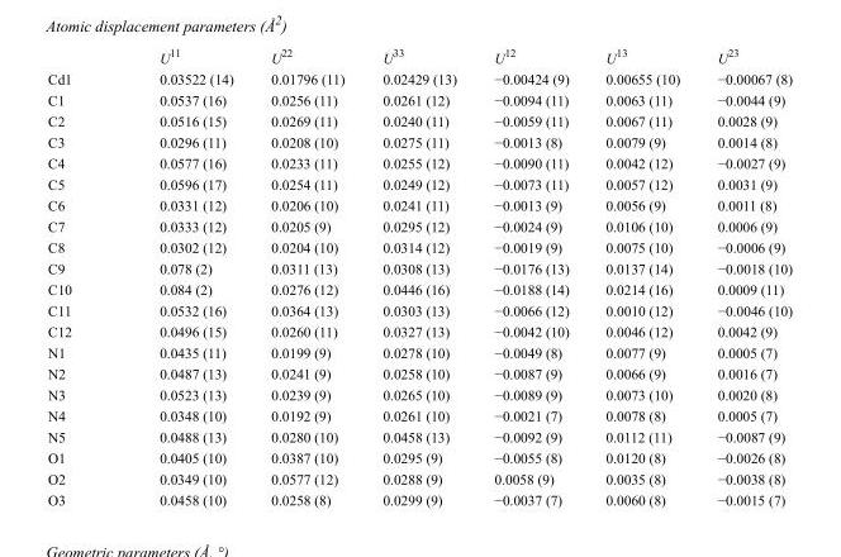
<table><thead><tr><td></td><td>U<sup>11</sup></td><td>U<sup>22</sup></td><td>U<sup>33</sup></td><td>U<sup>12</sup></td><td>U<sup>13</sup></td><td>U<sup>23</sup></td></tr></thead><tbody><tr><td>Cd1</td><td>0.03522 (14)</td><td>0.01796 (11)</td><td>0.02429 (13)</td><td>−0.00424 (9)</td><td>0.00655 (10)</td><td>−0.00067 (8)</td></tr><tr><td>C1</td><td>0.0537 (16)</td><td>0.0256 (11)</td><td>0.0261 (12)</td><td>−0.0094 (11)</td><td>0.0063 (11)</td><td>−0.0044 (9)</td></tr><tr><td>C2</td><td>0.0516 (15)</td><td>0.0269 (11)</td><td>0.0240 (11)</td><td>−0.0059 (11)</td><td>0.0067 (11)</td><td>0.0028 (9)</td></tr><tr><td>C3</td><td>0.0296 (11)</td><td>0.0208 (10)</td><td>0.0275 (11)</td><td>−0.0013 (8)</td><td>0.0079 (9)</td><td>0.0014 (8)</td></tr><tr><td>C4</td><td>0.0577 (16)</td><td>0.0233 (11)</td><td>0.0255 (12)</td><td>−0.0090 (11)</td><td>0.0042 (12)</td><td>−0.0027 (9)</td></tr><tr><td>C5</td><td>0.0596 (17)</td><td>0.0254 (11)</td><td>0.0249 (12)</td><td>−0.0073 (11)</td><td>0.0057 (12)</td><td>0.0031 (9)</td></tr><tr><td>C6</td><td>0.0331 (12)</td><td>0.0206 (10)</td><td>0.0241 (11)</td><td>−0.0013 (9)</td><td>0.0056 (9)</td><td>0.0011 (8)</td></tr><tr><td>C7</td><td>0.0333 (12)</td><td>0.0205 (9)</td><td>0.0295 (12)</td><td>−0.0024 (9)</td><td>0.0106 (10)</td><td>0.0006 (9)</td></tr><tr><td>C8</td><td>0.0302 (12)</td><td>0.0204 (10)</td><td>0.0314 (12)</td><td>−0.0019 (9)</td><td>0.0075 (10)</td><td>−0.0006 (9)</td></tr><tr><td>C9</td><td>0.078 (2)</td><td>0.0311 (13)</td><td>0.0308 (13)</td><td>−0.0176 (13)</td><td>0.0137 (14)</td><td>−0.0018 (10)</td></tr><tr><td>C10</td><td>0.084 (2)</td><td>0.0276 (12)</td><td>0.0446 (16)</td><td>−0.0188 (14)</td><td>0.0214 (16)</td><td>0.0009 (11)</td></tr><tr><td>C11</td><td>0.0532 (16)</td><td>0.0364 (13)</td><td>0.0303 (13)</td><td>−0.0066 (12)</td><td>0.0010 (12)</td><td>−0.0046 (10)</td></tr><tr><td>C12</td><td>0.0496 (15)</td><td>0.0260 (11)</td><td>0.0327 (13)</td><td>−0.0042 (10)</td><td>0.0046 (12)</td><td>0.0042 (9)</td></tr><tr><td>N1</td><td>0.0435 (11)</td><td>0.0199 (9)</td><td>0.0278 (10)</td><td>−0.0049 (8)</td><td>0.0077 (9)</td><td>0.0005 (7)</td></tr><tr><td>N2</td><td>0.0487 (13)</td><td>0.0241 (9)</td><td>0.0258 (10)</td><td>−0.0087 (9)</td><td>0.0066 (9)</td><td>0.0016 (7)</td></tr><tr><td>N3</td><td>0.0523 (13)</td><td>0.0239 (9)</td><td>0.0265 (10)</td><td>−0.0089 (9)</td><td>0.0073 (10)</td><td>0.0020 (8)</td></tr><tr><td>N4</td><td>0.0348 (10)</td><td>0.0192 (9)</td><td>0.0261 (10)</td><td>−0.0021 (7)</td><td>0.0078 (8)</td><td>0.0005 (7)</td></tr><tr><td>N5</td><td>0.0488 (13)</td><td>0.0280 (10)</td><td>0.0458 (13)</td><td>−0.0092 (9)</td><td>0.0112 (11)</td><td>−0.0087 (9)</td></tr><tr><td>O1</td><td>0.0405 (10)</td><td>0.0387 (10)</td><td>0.0295 (9)</td><td>−0.0055 (8)</td><td>0.0120 (8)</td><td>−0.0026 (8)</td></tr><tr><td>O2</td><td>0.0349 (10)</td><td>0.0577 (12)</td><td>0.0288 (9)</td><td>0.0058 (9)</td><td>0.0035 (8)</td><td>−0.0038 (8)</td></tr><tr><td>O3</td><td>0.0458 (10)</td><td>0.0258 (8)</td><td>0.0299 (9)</td><td>−0.0037 (7)</td><td>0.0060 (8)</td><td>−0.0015 (7)</td></tr></tbody></table>